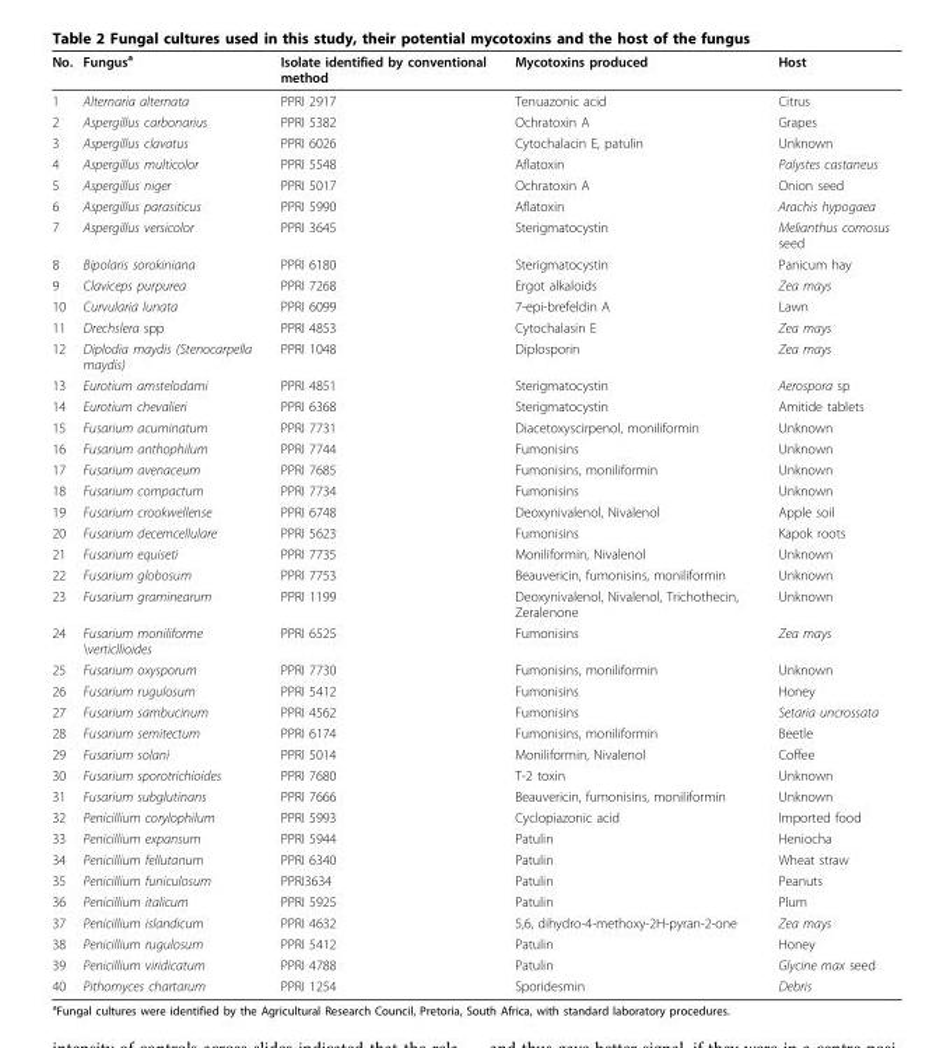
<table><thead><tr><td>No.</td><td>Fungus<sup>a</sup></td><td>Isolate identified by conventional method</td><td>Mycotoxins produced</td><td>Host</td></tr></thead><tbody><tr><td>1</td><td>Alternaria alternata</td><td>PPRI 2917</td><td>Tenuazonic acid</td><td>Citrus</td></tr><tr><td>2</td><td>Aspergillus carbonarius</td><td>PPRI 5382</td><td>Ochratoxin A</td><td>Grapes</td></tr><tr><td>3</td><td>Aspergillus clavatus</td><td>PPRI 6026</td><td>Cytochalacin E, patulin</td><td>Unknown</td></tr><tr><td>4</td><td>Aspergillus multicolor</td><td>PPRI 5548</td><td>Aflatoxin</td><td>Palystes castaneus</td></tr><tr><td>5</td><td>Aspergillus niger</td><td>PPRI 5017</td><td>Ochratoxin A</td><td>Onion seed</td></tr><tr><td>6</td><td>Aspergillus parasiticus</td><td>PPRI 5990</td><td>Aflatoxin</td><td>Arachis hypogaea</td></tr><tr><td>7</td><td>Aspergillus versicolor</td><td>PPRI 3645</td><td>Sterigmatocystin</td><td>Melianthus comosus seed</td></tr><tr><td>8</td><td>Bipolaris sorokiniana</td><td>PPRI 6180</td><td>Sterigmatocystin</td><td>Panicum hay</td></tr><tr><td>9</td><td>Claviceps purpurea</td><td>PPRI 7268</td><td>Ergot alkaloids</td><td>Zea mays</td></tr><tr><td>10</td><td>Curvularia lunata</td><td>PPRI 6099</td><td>7-epi-brefeldin A</td><td>Lawn</td></tr><tr><td>11</td><td>Drechslera spp</td><td>PPRI 4853</td><td>Cytochalasin E</td><td>Zea mays</td></tr><tr><td>12</td><td>Diplodia maydis (Stenocarpella maydis)</td><td>PPRI 1048</td><td>Diplosporin</td><td>Zea mays</td></tr><tr><td>13</td><td>Eurotium amstelodami</td><td>PPRI 4851</td><td>Sterigmatocystin</td><td>Aerospora sp</td></tr><tr><td>14</td><td>Eurotium chevalieri</td><td>PPRI 6368</td><td>Sterigmatocystin</td><td>Amitide tablets</td></tr><tr><td>15</td><td>Fusarium acuminatum</td><td>PPRI 7731</td><td>Diacetoxyscirpenol, moniliformin</td><td>Unknown</td></tr><tr><td>16</td><td>Fusarium anthophilum</td><td>PPRI 7744</td><td>Fumonisins</td><td>Unknown</td></tr><tr><td>17</td><td>Fusarium avenaceum</td><td>PPRI 7685</td><td>Fumonisins, moniliformin</td><td>Unknown</td></tr><tr><td>18</td><td>Fusarium compactum</td><td>PPRI 7734</td><td>Fumonisins</td><td>Unknown</td></tr><tr><td>19</td><td>Fusarium crookwellense</td><td>PPRI 6748</td><td>Deoxynivalenol, Nivalenol</td><td>Apple soil</td></tr><tr><td>20</td><td>Fusarium decemcellulare</td><td>PPRI 5623</td><td>Fumonisins</td><td>Kapok roots</td></tr><tr><td>21</td><td>Fusarium equiseti</td><td>PPRI 7735</td><td>Moniliformin, Nivalenol</td><td>Unknown</td></tr><tr><td>22</td><td>Fusarium globosum</td><td>PPRI 7753</td><td>Beauvericin, fumonisins, moniliformin</td><td>Unknown</td></tr><tr><td>23</td><td>Fusarium graminearum</td><td>PPRI 1199</td><td>Deoxynivalenol, Nivalenol, Trichothecin, Zeralenone</td><td>Unknown</td></tr><tr><td>24</td><td>Fusarium moniliforme \verticllioides</td><td>PPRI 6525</td><td>Fumonisins</td><td>Zea mays</td></tr><tr><td>25</td><td>Fusarium oxysporum</td><td>PPRI 7730</td><td>Fumonisins, moniliformin</td><td>Unknown</td></tr><tr><td>26</td><td>Fusarium rugulosum</td><td>PPRI 5412</td><td>Fumonisins</td><td>Honey</td></tr><tr><td>27</td><td>Fusarium sambucinum</td><td>PPRI 4562</td><td>Fumonisins</td><td>Setaria uncrossata</td></tr><tr><td>28</td><td>Fusarium semitectum</td><td>PPRI 6174</td><td>Fumonisins, moniliformin</td><td>Beetle</td></tr><tr><td>29</td><td>Fusarium solani</td><td>PPRI 5014</td><td>Moniliformin, Nivalenol</td><td>Coffee</td></tr><tr><td>30</td><td>Fusarium sporotrichioides</td><td>PPRI 7680</td><td>T-2 toxin</td><td>Unknown</td></tr><tr><td>31</td><td>Fusarium subglutinans</td><td>PPRI 7666</td><td>Beauvericin, fumonisins, moniliformin</td><td>Unknown</td></tr><tr><td>32</td><td>Penicillium corylophilum</td><td>PPRI 5993</td><td>Cyclopiazonic acid</td><td>Imported food</td></tr><tr><td>33</td><td>Penicillium expansum</td><td>PPRI 5944</td><td>Patulin</td><td>Heniocha</td></tr><tr><td>34</td><td>Penicillium fellutanum</td><td>PPRI 6340</td><td>Patulin</td><td>Wheat straw</td></tr><tr><td>35</td><td>Penicillium funiculosum</td><td>PPRI3634</td><td>Patulin</td><td>Peanuts</td></tr><tr><td>36</td><td>Penicillium italicum</td><td>PPRI 5925</td><td>Patulin</td><td>Plum</td></tr><tr><td>37</td><td>Penicillium islandicum</td><td>PPRI 4632</td><td>5,6, dihydro-4-methoxy-2H-pyran-2-one</td><td>Zea mays</td></tr><tr><td>38</td><td>Penicillium rugulosum</td><td>PPRI 5412</td><td>Patulin</td><td>Honey</td></tr><tr><td>39</td><td>Penicillium viridicatum</td><td>PPRI 4788</td><td>Patulin</td><td>Glycine max seed</td></tr><tr><td>40</td><td>Pithomyces chartarum</td><td>PPRI 1254</td><td>Sporidesmin</td><td>Debris</td></tr></tbody></table>